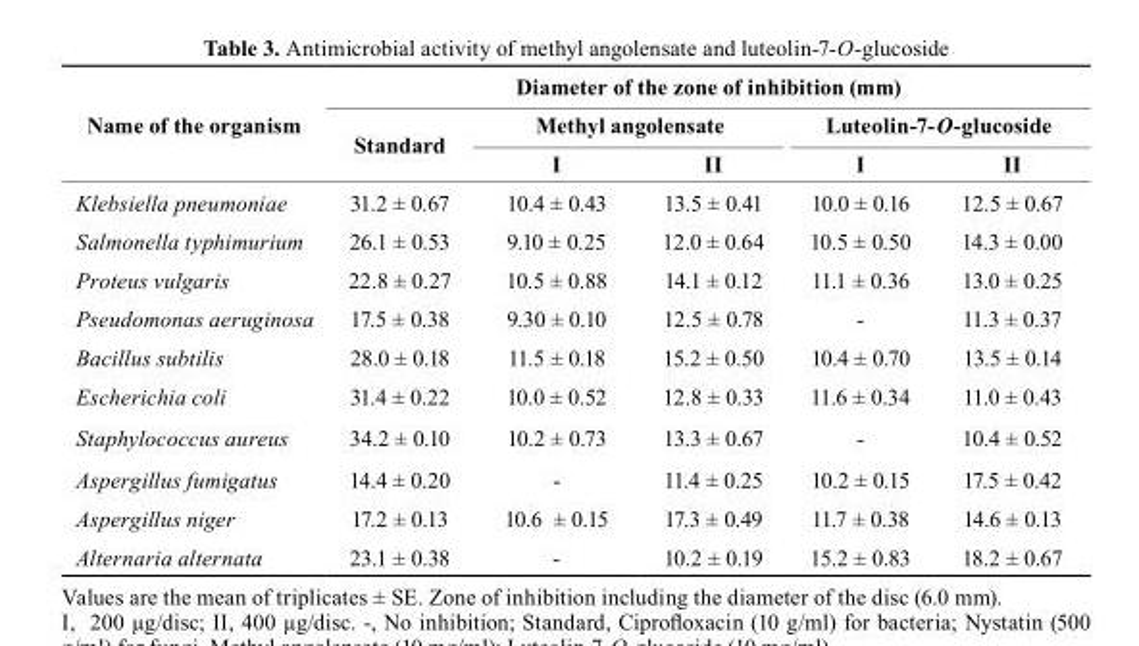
<table><thead><tr><td rowspan="3">Name of the organism</td><td colspan="5">diameter of the zone of inhibition (mm)</td></tr><tr><td rowspan="2">standard</td><td colspan="2">Methyl angolensate</td><td colspan="2">Luteolin-7-O-glucoside</td></tr><tr><td>I</td><td>II</td><td>I</td><td>II</td></tr></thead><tbody><tr><td>Klebsiella pneumoniae</td><td>31.2 ± 0.67</td><td>10.4 ± 0.43</td><td>13.5 ± 0.41</td><td>10.0 ± 0.16</td><td>12.5 ± 0.67</td></tr><tr><td>Salmonella typhimurium</td><td>26.1 ± 0.53</td><td>9.10 ± 0.25</td><td>12.0 ± 0.64</td><td>10.5 ± 0.50</td><td>14.3 ± 0.00</td></tr><tr><td>Proteus vulgaris</td><td>22.8 ± 0.27</td><td>10.5 ± 0.88</td><td>14.1 ± 0.12</td><td>11.1 ± 0.36</td><td>13.0 ± 0.25</td></tr><tr><td>Pseudomonas aeruginosa</td><td>17.5 ± 0.38</td><td>9.30 ± 0.10</td><td>12.5 ± 0.78</td><td>-</td><td>11.3 ± 0.37</td></tr><tr><td>Bacillus subtilis</td><td>28.0 ± 0.18</td><td>11.5 ± 0.18</td><td>15.2 ± 0.50</td><td>10.4 ± 0.70</td><td>13.5 ± 0.14</td></tr><tr><td>Escherichia coli</td><td>31.4 ± 0.22</td><td>10.0 ± 0.52</td><td>12.8 ± 0.33</td><td>11.6 ± 0.34</td><td>11.0 ± 0.43</td></tr><tr><td>Staphylococcus aureus</td><td>34.2 ± 0.10</td><td>10.2 ± 0.73</td><td>13.3 ± 0.67</td><td>-</td><td>10.4 ± 0.52</td></tr><tr><td>Aspergillus fumigatus</td><td>14.4 ± 0.20</td><td>-</td><td>11.4 ± 0.25</td><td>10.2 ± 0.15</td><td>17.5 ± 0.42</td></tr><tr><td>Aspergillus niger</td><td>17.2 ± 0.13</td><td>10.6 ± 0.15</td><td>17.3 ± 0.49</td><td>11.7 ± 0.38</td><td>14.6 ± 0.13</td></tr><tr><td>Alternaria alternata</td><td>23.1 ± 0.38</td><td>-</td><td>10.2 ± 0.19</td><td>15.2 ± 0.83</td><td>18.2 ± 0.67</td></tr></tbody></table>